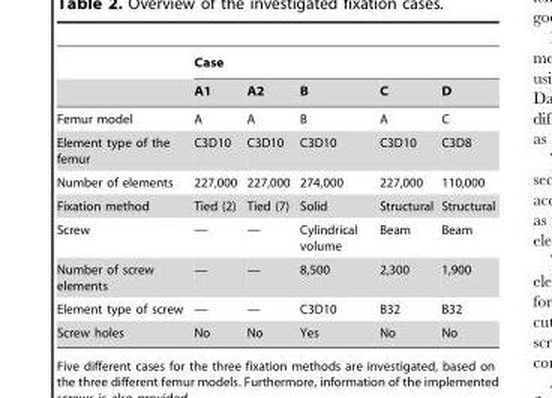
<table><thead><tr><td rowspan="2"></td><td colspan="5">Case</td></tr><tr><td>A1</td><td>A2</td><td>B</td><td>C</td><td>D</td></tr></thead><tbody><tr><td>Femur model</td><td>A</td><td>A</td><td>B</td><td>A</td><td>C</td></tr><tr><td>Element type of the femur</td><td>C3D10</td><td>C3D10</td><td>C3D10</td><td>C3D10</td><td>C3D8</td></tr><tr><td>Number of elements</td><td>227,000</td><td>227,000</td><td>274,000</td><td>227,000</td><td>110,000</td></tr><tr><td>Fixation method</td><td>Tied (2)</td><td>Tied (7)</td><td>Solid</td><td>Structural</td><td>Structural</td></tr><tr><td>Screw</td><td>—</td><td>—</td><td>Cylindrical volume</td><td>Beam</td><td>Beam</td></tr><tr><td>Number of screw elements</td><td>—</td><td>—</td><td>8,500</td><td>2,300</td><td>1,900</td></tr><tr><td>Element type of screw</td><td>—</td><td>—</td><td>C3D10</td><td>B32</td><td>B32</td></tr><tr><td>Screw holes</td><td>No</td><td>No</td><td>Yes</td><td>No</td><td>No</td></tr></tbody></table>